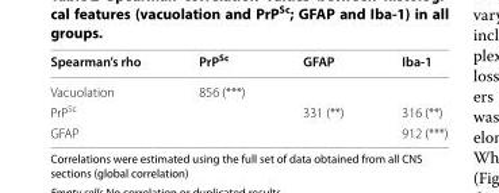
<table><thead><tr><td>Spearman’s rho</td><td>PrP<sup>Sc</sup></td><td>GFAP</td><td>Iba‑1</td></tr></thead><tbody><tr><td>Vacuolation</td><td>856 (***)</td><td></td><td></td></tr><tr><td>PrP<sup>Sc</sup></td><td></td><td>331 (**)</td><td>316 (**)</td></tr><tr><td>GFAP</td><td></td><td></td><td>912 (***)</td></tr></tbody></table>